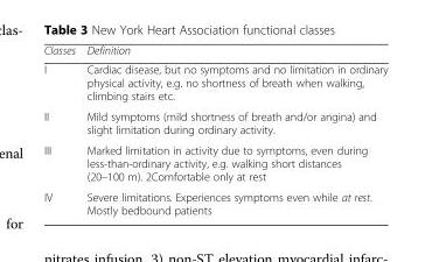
<table><thead><tr><td>Classes</td><td>Definition</td></tr></thead><tbody><tr><td>I</td><td>Cardiac disease, but no symptoms and no limitation in ordinary physical activity, e.g. no shortness of breath when walking, climbing stairs etc.</td></tr><tr><td>II</td><td>Mild symptoms (mild shortness of breath and/or angina) and slight limitation during ordinary activity.</td></tr><tr><td>III</td><td>Marked limitation in activity due to symptoms, even during less-than-ordinary activity, e.g. walking short distances (20–100 m). 2Comfortable only at rest</td></tr><tr><td>IV</td><td>Severe limitations. Experiences symptoms even while at rest. Mostly bedbound patients</td></tr></tbody></table>